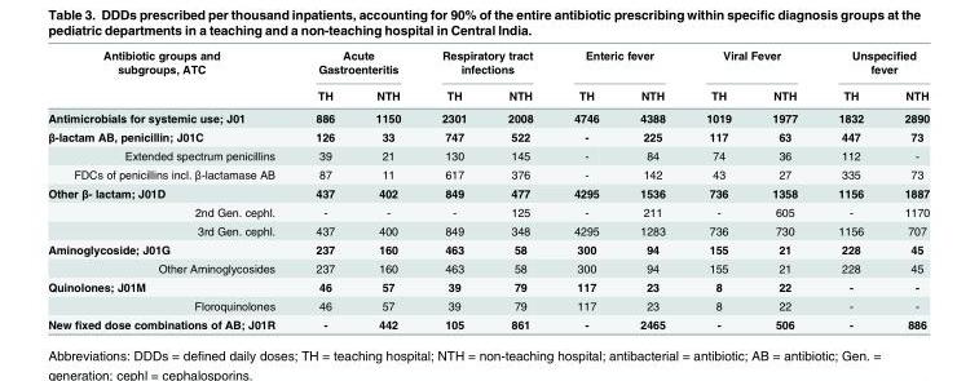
<table><thead><tr><td rowspan="2">Antibiotic groups and subgroups, ATC</td><td colspan="2">Acute Gastroenteritis</td><td colspan="2">Respiratory tract infections</td><td colspan="2">Enteric fever</td><td colspan="2">Viral Fever</td><td colspan="2">Unspecified fever</td></tr><tr><td>TH</td><td>NTH</td><td>TH</td><td>NTH</td><td>TH</td><td>NTH</td><td>TH</td><td>NTH</td><td>TH</td><td>NTH</td></tr></thead><tbody><tr><td>Antimicrobials for systemic use; J01</td><td>886</td><td>1150</td><td>2301</td><td>2008</td><td>4746</td><td>4388</td><td>1019</td><td>1977</td><td>1832</td><td>2890</td></tr><tr><td>β-lactam AB, penicillin; J01C</td><td>126</td><td>33</td><td>747</td><td>522</td><td>-</td><td>225</td><td>117</td><td>63</td><td>447</td><td>73</td></tr><tr><td>Extended spectrum penicillins</td><td>39</td><td>21</td><td>130</td><td>145</td><td>-</td><td>84</td><td>74</td><td>36</td><td>112</td><td>-</td></tr><tr><td>FDCs of penicillins incl. β-lactamase AB</td><td>87</td><td>11</td><td>617</td><td>376</td><td>-</td><td>142</td><td>43</td><td>27</td><td>335</td><td>73</td></tr><tr><td>Other β- lactam; J01D</td><td>437</td><td>402</td><td>849</td><td>477</td><td>4295</td><td>1536</td><td>736</td><td>1358</td><td>1156</td><td>1887</td></tr><tr><td>2nd Gen. cephl.</td><td>-</td><td>-</td><td>-</td><td>125</td><td>-</td><td>211</td><td>-</td><td>605</td><td>-</td><td>1170</td></tr><tr><td>3rd Gen. cephl.</td><td>437</td><td>400</td><td>849</td><td>348</td><td>4295</td><td>1283</td><td>736</td><td>730</td><td>1156</td><td>707</td></tr><tr><td>Aminoglycoside; J01G</td><td>237</td><td>160</td><td>463</td><td>58</td><td>300</td><td>94</td><td>155</td><td>21</td><td>228</td><td>45</td></tr><tr><td>Other Aminoglycosides</td><td>237</td><td>160</td><td>463</td><td>58</td><td>300</td><td>94</td><td>155</td><td>21</td><td>228</td><td>45</td></tr><tr><td>Quinolones; J01M</td><td>46</td><td>57</td><td>39</td><td>79</td><td>117</td><td>23</td><td>8</td><td>22</td><td>-</td><td>-</td></tr><tr><td>Floroquinolones</td><td>46</td><td>57</td><td>39</td><td>79</td><td>117</td><td>23</td><td>8</td><td>22</td><td>-</td><td>-</td></tr><tr><td>New fixed dose combinations of AB; J01R</td><td>-</td><td>442</td><td>105</td><td>861</td><td>-</td><td>2465</td><td>-</td><td>506</td><td>-</td><td>886</td></tr></tbody></table>